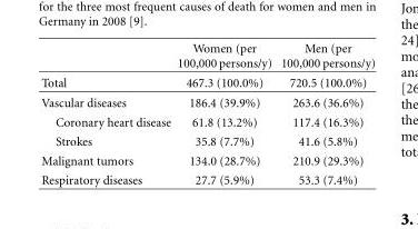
<table><thead><tr><td></td><td>Women (per 100,000 persons/y)</td><td>Men (per 100,000 persons/y)</td></tr></thead><tbody><tr><td>Total</td><td>467.3 (100.0%)</td><td>720.5 (100.0%)</td></tr><tr><td>Vascular diseases</td><td>186.4 (39.9%)</td><td>263.6 (36.6%)</td></tr><tr><td>Coronary heart disease</td><td>61.8 (13.2%)</td><td>117.4 (16.3%)</td></tr><tr><td>Strokes</td><td>35.8 (7.7%)</td><td>41.6 (5.8%)</td></tr><tr><td>Malignant tumors</td><td>134.0 (28.7%)</td><td>210.9 (29.3%)</td></tr><tr><td>Respiratory diseases</td><td>27.7 (5.9%)</td><td>53.3 (7.4%)</td></tr></tbody></table>